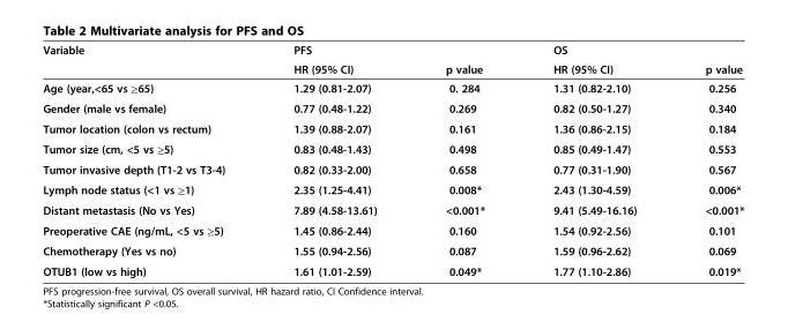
<table><thead><tr><td rowspan="2">Variable</td><td rowspan="2">PFS HR (95% CI)</td><td rowspan="2">p value</td><td rowspan="2">OS HR (95% CI)</td><td rowspan="2">p value</td></tr><tr></tr></thead><tbody><tr><td>Age (year,&lt;65 vs ≥65)</td><td>1.29 (0.81-2.07)</td><td>0. 284</td><td>1.31 (0.82-2.10)</td><td>0.256</td></tr><tr><td>Gender (male vs female)</td><td>0.77 (0.48-1.22)</td><td>0.269</td><td>0.82 (0.50-1.27)</td><td>0.340</td></tr><tr><td>Tumor location (colon vs rectum)</td><td>1.39 (0.88-2.07)</td><td>0.161</td><td>1.36 (0.86-2.15)</td><td>0.184</td></tr><tr><td>Tumor size (cm, &lt;5 vs ≥5)</td><td>0.83 (0.48-1.43)</td><td>0.498</td><td>0.85 (0.49-1.47)</td><td>0.553</td></tr><tr><td>Tumor invasive depth (T1-2 vs T3-4)</td><td>0.82 (0.33-2.00)</td><td>0.658</td><td>0.77 (0.31-1.90)</td><td>0.567</td></tr><tr><td>Lymph node status (&lt;1 vs ≥1)</td><td>2.35 (1.25-4.41)</td><td>0.008*</td><td>2.43 (1.30-4.59)</td><td>0.006*</td></tr><tr><td>Distant metastasis (No vs Yes)</td><td>7.89 (4.58-13.61)</td><td>&lt;0.001*</td><td>9.41 (5.49-16.16)</td><td>&lt;0.001*</td></tr><tr><td>Preoperative CAE (ng/mL, &lt;5 vs ≥5)</td><td>1.45 (0.86-2.44)</td><td>0.160</td><td>1.54 (0.92-2.56)</td><td>0.101</td></tr><tr><td>Chemotherapy (Yes vs no)</td><td>1.55 (0.94-2.56)</td><td>0.087</td><td>1.59 (0.96-2.62)</td><td>0.069</td></tr><tr><td>OTUB1 (low vs high)</td><td>1.61 (1.01-2.59)</td><td>0.049*</td><td>1.77 (1.10-2.86)</td><td>0.019*</td></tr></tbody></table>